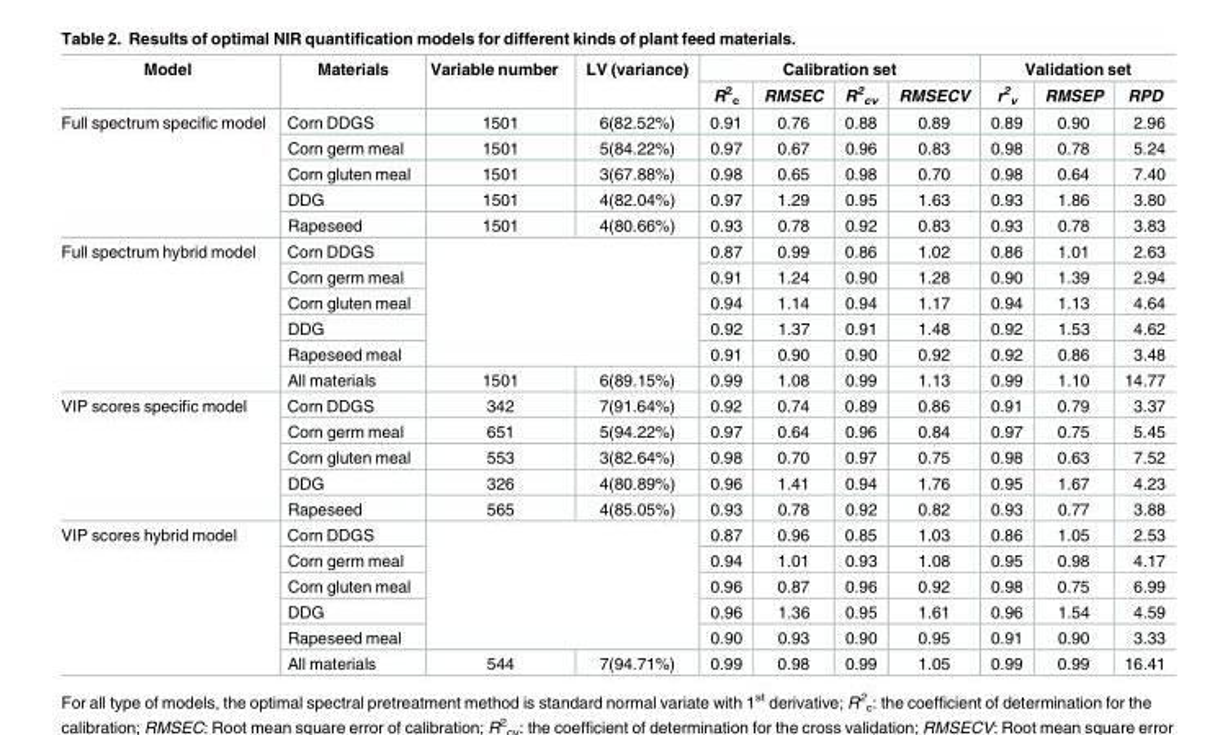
<table><thead><tr><td rowspan="2">Model</td><td rowspan="2">Materials</td><td rowspan="2">Variable number</td><td rowspan="2">LV (variance)</td><td colspan="4">Calibration set</td><td colspan="3">Validation set</td></tr><tr><td>R<sup>2</sup> <sub>c</sub></td><td>RMSEC</td><td>R<sup>2</sup> <sub>cv</sub></td><td>RMSECV</td><td>r<sup>2</sup> <sub>v</sub></td><td>RMSEP</td><td>RPD</td></tr></thead><tbody><tr><td rowspan="5">Full spectrum specific model</td><td>Corn DDGS</td><td>1501</td><td>6(82.52%)</td><td>0.91</td><td>0.76</td><td>0.88</td><td>0.89</td><td>0.89</td><td>0.90</td><td>2.96</td></tr><tr><td>Corn germ meal</td><td>1501</td><td>5(84.22%)</td><td>0.97</td><td>0.67</td><td>0.96</td><td>0.83</td><td>0.98</td><td>0.78</td><td>5.24</td></tr><tr><td>Corn gluten meal</td><td>1501</td><td>3(67.88%)</td><td>0.98</td><td>0.65</td><td>0.98</td><td>0.70</td><td>0.98</td><td>0.64</td><td>7.40</td></tr><tr><td>DDG</td><td>1501</td><td>4(82.04%)</td><td>0.97</td><td>1.29</td><td>0.95</td><td>1.63</td><td>0.93</td><td>1.86</td><td>3.80</td></tr><tr><td>Rapeseed</td><td>1501</td><td>4(80.66%)</td><td>0.93</td><td>0.78</td><td>0.92</td><td>0.83</td><td>0.93</td><td>0.78</td><td>3.83</td></tr><tr><td rowspan="6">Full spectrum hybrid model</td><td>Corn DDGS</td><td rowspan="5" colspan="2"></td><td>0.87</td><td>0.99</td><td>0.86</td><td>1.02</td><td>0.86</td><td>1.01</td><td>2.63</td></tr><tr><td>Corn germ meal</td><td>0.91</td><td>1.24</td><td>0.90</td><td>1.28</td><td>0.90</td><td>1.39</td><td>2.94</td></tr><tr><td>Corn gluten meal</td><td>0.94</td><td>1.14</td><td>0.94</td><td>1.17</td><td>0.94</td><td>1.13</td><td>4.64</td></tr><tr><td>DDG</td><td>0.92</td><td>1.37</td><td>0.91</td><td>1.48</td><td>0.92</td><td>1.53</td><td>4.62</td></tr><tr><td>Rapeseed meal</td><td>0.91</td><td>0.90</td><td>0.90</td><td>0.92</td><td>0.92</td><td>0.86</td><td>3.48</td></tr><tr><td>All materials</td><td>1501</td><td>6(89.15%)</td><td>0.99</td><td>1.08</td><td>0.99</td><td>1.13</td><td>0.99</td><td>1.10</td><td>14.77</td></tr><tr><td rowspan="5">VIP scores specific model</td><td>Corn DDGS</td><td>342</td><td>7(91.64%)</td><td>0.92</td><td>0.74</td><td>0.89</td><td>0.86</td><td>0.91</td><td>0.79</td><td>3.37</td></tr><tr><td>Corn germ meal</td><td>651</td><td>5(94.22%)</td><td>0.97</td><td>0.64</td><td>0.96</td><td>0.84</td><td>0.97</td><td>0.75</td><td>5.45</td></tr><tr><td>Corn gluten meal</td><td>553</td><td>3(82.64%)</td><td>0.98</td><td>0.70</td><td>0.97</td><td>0.75</td><td>0.98</td><td>0.63</td><td>7.52</td></tr><tr><td>DDG</td><td>326</td><td>4(80.89%)</td><td>0.96</td><td>1.41</td><td>0.94</td><td>1.76</td><td>0.95</td><td>1.67</td><td>4.23</td></tr><tr><td>Rapeseed</td><td>565</td><td>4(85.05%)</td><td>0.93</td><td>0.78</td><td>0.92</td><td>0.82</td><td>0.93</td><td>0.77</td><td>3.88</td></tr><tr><td rowspan="6">VIP scores hybrid model</td><td>Corn DDGS</td><td rowspan="5" colspan="2"></td><td>0.87</td><td>0.96</td><td>0.85</td><td>1.03</td><td>0.86</td><td>1.05</td><td>2.53</td></tr><tr><td>Corn germ meal</td><td>0.94</td><td>1.01</td><td>0.93</td><td>1.08</td><td>0.95</td><td>0.98</td><td>4.17</td></tr><tr><td>Corn gluten meal</td><td>0.96</td><td>0.87</td><td>0.96</td><td>0.92</td><td>0.98</td><td>0.75</td><td>6.99</td></tr><tr><td>DDG</td><td>0.96</td><td>1.36</td><td>0.95</td><td>1.61</td><td>0.96</td><td>1.54</td><td>4.59</td></tr><tr><td>Rapeseed meal</td><td>0.90</td><td>0.93</td><td>0.90</td><td>0.95</td><td>0.91</td><td>0.90</td><td>3.33</td></tr><tr><td>All materials</td><td>544</td><td>7(94.71%)</td><td>0.99</td><td>0.98</td><td>0.99</td><td>1.05</td><td>0.99</td><td>0.99</td><td>16.41</td></tr></tbody></table>